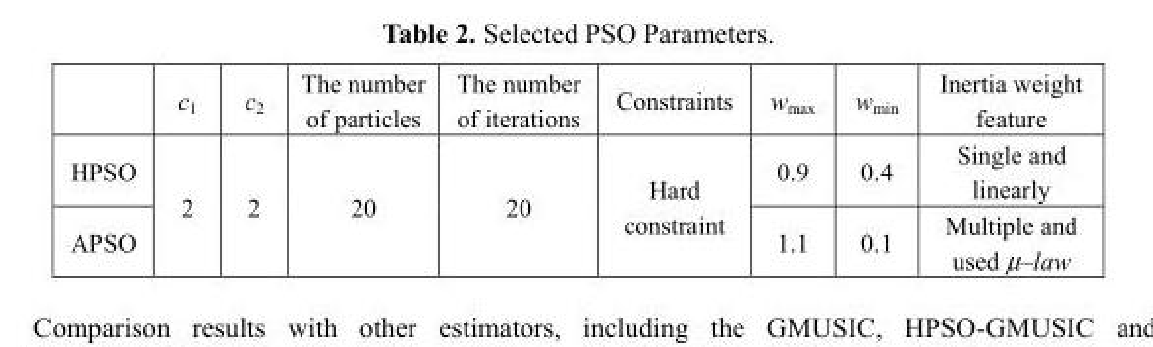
<table><thead><tr><td></td><td>c<sub>1</sub></td><td>c<sub>2</sub></td><td>The number of particles</td><td>The number of iterations</td><td>Constraints</td><td>w<sub>max</sub></td><td>w<sub>min</sub></td><td>Inertia weight feature</td></tr></thead><tbody><tr><td>HPSO</td><td rowspan="2">2</td><td rowspan="2">2</td><td rowspan="2">20</td><td rowspan="2">20</td><td rowspan="2">Hard constraint</td><td>0.9</td><td>0.4</td><td>Single and linearly</td></tr><tr><td>APSO</td><td>1.1</td><td>0.1</td><td>Multiple and used μ–law</td></tr></tbody></table>